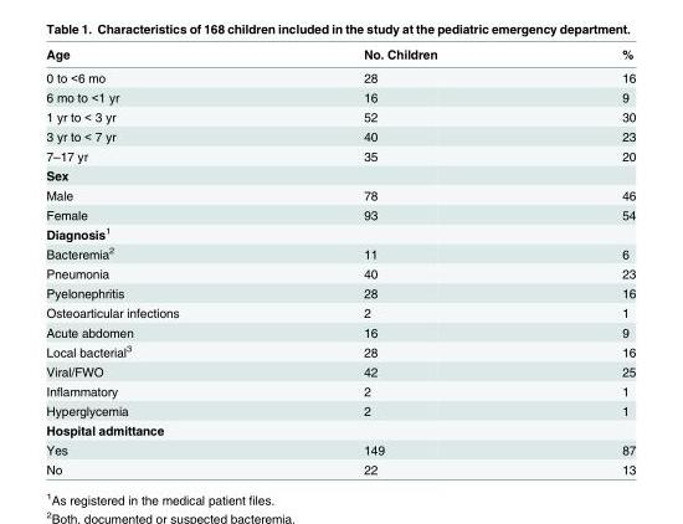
<table><thead><tr><td>Age</td><td>No. Children</td><td>%</td></tr></thead><tbody><tr><td>0 to &lt;6 mo</td><td>28</td><td>16</td></tr><tr><td>6 mo to &lt;1 yr</td><td>16</td><td>9</td></tr><tr><td>1 yr to &lt; 3 yr</td><td>52</td><td>30</td></tr><tr><td>3 yr to &lt; 7 yr</td><td>40</td><td>23</td></tr><tr><td>7–17 yr</td><td>35</td><td>20</td></tr><tr><td colspan="3">Sex</td></tr><tr><td>Male</td><td>78</td><td>46</td></tr><tr><td>Female</td><td>93</td><td>54</td></tr><tr><td colspan="3">Diagnosis<sup>1</sup></td></tr><tr><td>Bacteremia<sup>2</sup></td><td>11</td><td>6</td></tr><tr><td>Pneumonia</td><td>40</td><td>23</td></tr><tr><td>Pyelonephritis</td><td>28</td><td>16</td></tr><tr><td>Osteoarticular infections</td><td>2</td><td>1</td></tr><tr><td>Acute abdomen</td><td>16</td><td>9</td></tr><tr><td>Local bacterial<sup>3</sup></td><td>28</td><td>16</td></tr><tr><td>Viral/FWO</td><td>42</td><td>25</td></tr><tr><td>Inflammatory</td><td>2</td><td>1</td></tr><tr><td>Hyperglycemia</td><td>2</td><td>1</td></tr><tr><td colspan="3">Hospital admittance</td></tr><tr><td>Yes</td><td>149</td><td>87</td></tr><tr><td>No</td><td>22</td><td>13</td></tr></tbody></table>